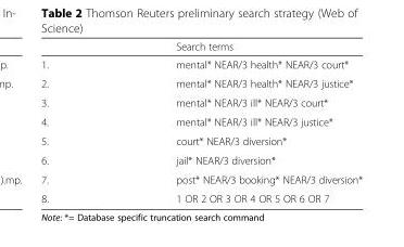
<table><thead><tr><td></td><td>Search terms</td></tr></thead><tbody><tr><td>1.</td><td>mental* NEAR/3 health* NEAR/3 court*</td></tr><tr><td>2.</td><td>mental* NEAR/3 health* NEAR/3 justice*</td></tr><tr><td>3.</td><td>mental* NEAR/3 ill* NEAR/3 court*</td></tr><tr><td>4.</td><td>mental* NEAR/3 ill* NEAR/3 justice*</td></tr><tr><td>5.</td><td>court* NEAR/3 diversion*</td></tr><tr><td>6.</td><td>jail* NEAR/3 diversion*</td></tr><tr><td>7.</td><td>post* NEAR/3 booking* NEAR/3 diversion*</td></tr><tr><td>8.</td><td>1 OR 2 OR 3 OR 4 OR 5 OR 6 OR 7</td></tr></tbody></table>